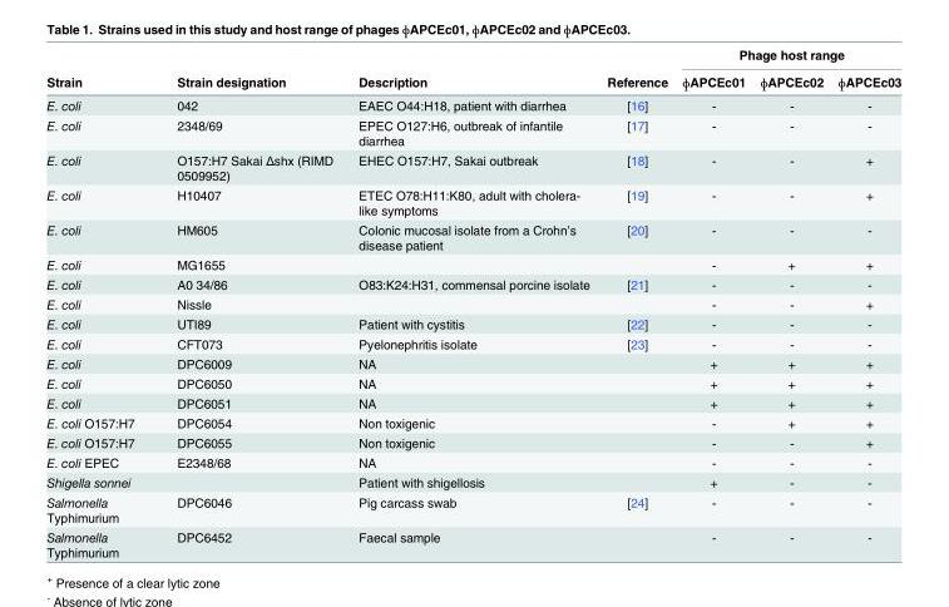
<table><thead><tr><td rowspan="2">Strain</td><td rowspan="2">Strain designation</td><td rowspan="2">Description</td><td rowspan="2">Reference</td><td colspan="3">Phage host range</td></tr><tr><td>ɸAPCEc01</td><td>ɸAPCEc02</td><td>ɸAPCEc03</td></tr></thead><tbody><tr><td>E. coli</td><td>042</td><td>EAEC O44:H18, patient with diarrhea</td><td>[16]</td><td>-</td><td>-</td><td>-</td></tr><tr><td>E. coli</td><td>2348/69</td><td>EPEC O127:H6, outbreak of infantile diarrhea</td><td>[17]</td><td>-</td><td>-</td><td>-</td></tr><tr><td>E. coli</td><td>O157:H7 Sakai Δshx (RIMD 0509952)</td><td>EHEC O157:H7, Sakai outbreak</td><td>[18]</td><td>-</td><td>-</td><td>+</td></tr><tr><td>E. coli</td><td>H10407</td><td>ETEC O78:H11:K80, adult with cholera- like symptoms</td><td>[19]</td><td>-</td><td>-</td><td>+</td></tr><tr><td>E. coli</td><td>HM605</td><td>Colonic mucosal isolate from a Crohn’s disease patient</td><td>[20]</td><td>-</td><td>-</td><td>-</td></tr><tr><td>E. coli</td><td>MG1655</td><td></td><td></td><td>-</td><td>+</td><td>+</td></tr><tr><td>E. coli</td><td>A0 34/86</td><td>O83:K24:H31, commensal porcine isolate</td><td>[21]</td><td>-</td><td>-</td><td>-</td></tr><tr><td>E. coli</td><td>Nissle</td><td></td><td></td><td>-</td><td>-</td><td>+</td></tr><tr><td>E. coli</td><td>UTI89</td><td>Patient with cystitis</td><td>[22]</td><td>-</td><td>-</td><td>-</td></tr><tr><td>E. coli</td><td>CFT073</td><td>Pyelonephritis isolate</td><td>[23]</td><td>-</td><td>-</td><td>-</td></tr><tr><td>E. coli</td><td>DPC6009</td><td>NA</td><td></td><td>+</td><td>+</td><td>+</td></tr><tr><td>E. coli</td><td>DPC6050</td><td>NA</td><td></td><td>+</td><td>+</td><td>+</td></tr><tr><td>E. coli</td><td>DPC6051</td><td>NA</td><td></td><td>+</td><td>+</td><td>+</td></tr><tr><td>E. coli O157:H7</td><td>DPC6054</td><td>Non toxigenic</td><td></td><td>-</td><td>+</td><td>+</td></tr><tr><td>E. coli O157:H7</td><td>DPC6055</td><td>Non toxigenic</td><td></td><td>-</td><td>-</td><td>+</td></tr><tr><td>E. coli EPEC</td><td>E2348/68</td><td>NA</td><td></td><td>-</td><td>-</td><td>-</td></tr><tr><td>Shigella sonnei</td><td></td><td>Patient with shigellosis</td><td></td><td>+</td><td>-</td><td>-</td></tr><tr><td>Salmonella Typhimurium</td><td>DPC6046</td><td>Pig carcass swab</td><td>[24]</td><td>-</td><td>-</td><td>-</td></tr><tr><td>Salmonella Typhimurium</td><td>DPC6452</td><td>Faecal sample</td><td></td><td>-</td><td>-</td><td>-</td></tr></tbody></table>